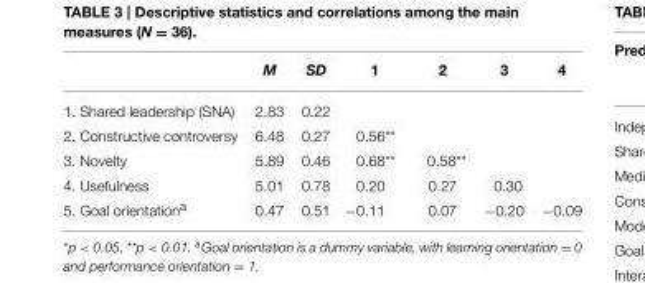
<table><thead><tr><td></td><td>M</td><td>SD</td><td>1</td><td>2</td><td>3</td><td>4</td></tr></thead><tbody><tr><td>1. Shared leadership (SNA)</td><td>2.83</td><td>0.22</td><td></td><td></td><td></td><td></td></tr><tr><td>2. Constructive controversy</td><td>6.48</td><td>0.27</td><td>0.56**</td><td></td><td></td><td></td></tr><tr><td>3. Novelty</td><td>5.89</td><td>0.46</td><td>0.68**</td><td>0.58**</td><td></td><td></td></tr><tr><td>4. Usefulness</td><td>5.01</td><td>0.78</td><td>0.20</td><td>0.27</td><td>0.30</td><td></td></tr><tr><td>5. Goal orientation<sup>a</sup></td><td>0.47</td><td>0.51</td><td>−0.11</td><td>0.07</td><td>−0.20</td><td>−0.09</td></tr></tbody></table>